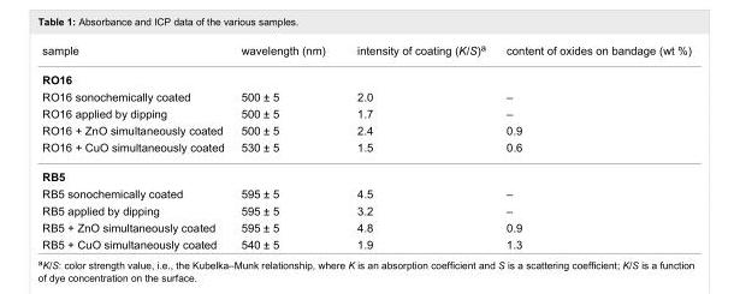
<table><tbody><tr><td>sample</td><td>wavelength (nm)</td><td>intensity of coating (K/S)<sup>a</sup></td><td>content of oxides on bandage (wt %)</td></tr><tr><td colspan="4">RO16</td></tr><tr><td>RO16 sonochemically coated</td><td>500 ± 5</td><td>2.0</td><td>–</td></tr><tr><td>RO16 applied by dipping</td><td>500 ± 5</td><td>1.7</td><td>–</td></tr><tr><td>RO16 + ZnO simultaneously coated</td><td>500 ± 5</td><td>2.4</td><td>0.9</td></tr><tr><td>RO16 + CuO simultaneously coated</td><td>530 ± 5</td><td>1.5</td><td>0.6</td></tr><tr><td colspan="4">RB5</td></tr><tr><td>RB5 sonochemically coated</td><td>595 ± 5</td><td>4.5</td><td>–</td></tr><tr><td>RB5 applied by dipping</td><td>595 ± 5</td><td>3.2</td><td>–</td></tr><tr><td>RB5 + ZnO simultaneously coated</td><td>595 ± 5</td><td>4.8</td><td>0.9</td></tr><tr><td>RB5 + CuO simultaneously coated</td><td>540 ± 5</td><td>1.9</td><td>1.3</td></tr></tbody></table>